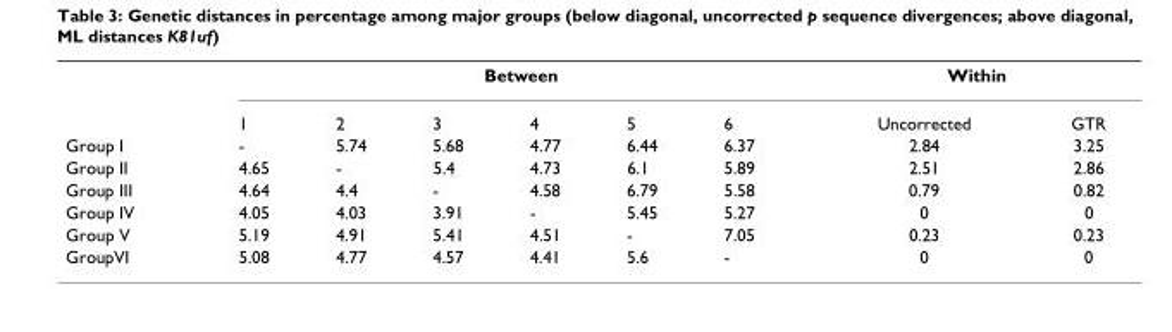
<table><thead><tr><td rowspan="2"></td><td colspan="6">Between</td><td colspan="2">Within</td></tr><tr><td>1</td><td>2</td><td>3</td><td>4</td><td>5</td><td>6</td><td>Uncorrected</td><td>GTR</td></tr></thead><tbody><tr><td>Group I</td><td>-</td><td>5.74</td><td>5.68</td><td>4.77</td><td>6.44</td><td>6.37</td><td>2.84</td><td>3.25</td></tr><tr><td>Group II</td><td>4.65</td><td>-</td><td>5.4</td><td>4.73</td><td>6.1</td><td>5.89</td><td>2.51</td><td>2.86</td></tr><tr><td>Group III</td><td>4.64</td><td>4.4</td><td>-</td><td>4.58</td><td>6.79</td><td>5.58</td><td>0.79</td><td>0.82</td></tr><tr><td>Group IV</td><td>4.05</td><td>4.03</td><td>3.91</td><td>-</td><td>5.45</td><td>5.27</td><td>0</td><td>0</td></tr><tr><td>Group V</td><td>5.19</td><td>4.91</td><td>5.41</td><td>4.51</td><td>-</td><td>7.05</td><td>0.23</td><td>0.23</td></tr><tr><td>GroupVI</td><td>5.08</td><td>4.77</td><td>4.57</td><td>4.41</td><td>5.6</td><td>-</td><td>0</td><td>0</td></tr></tbody></table>